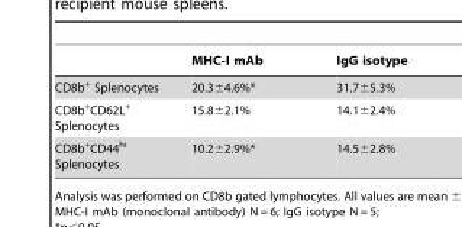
<table><thead><tr><td></td><td>MHC-I mAb</td><td>IgG isotype</td></tr></thead><tbody><tr><td>CD8b<sup>+</sup> Splenocytes</td><td>20.3±4.6%*</td><td>31.7±5.3%</td></tr><tr><td>CD8b<sup>+</sup>CD62L<sup>+</sup> Splenocytes</td><td>15.8±2.1%</td><td>14.1±2.4%</td></tr><tr><td>CD8b<sup>+</sup>CD44<sup>hi</sup> Splenocytes</td><td>10.2±2.9%*</td><td>14.5±2.8%</td></tr></tbody></table>